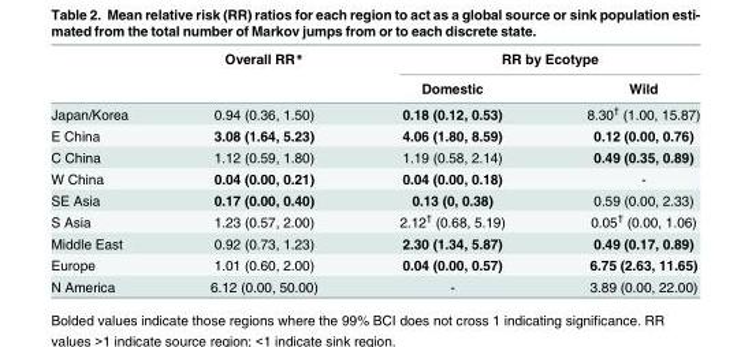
<table><thead><tr><td rowspan="2"></td><td rowspan="2">Overall RR*</td><td colspan="2">RR by Ecotype</td></tr><tr><td>Domestic</td><td>Wild</td></tr></thead><tbody><tr><td>Japan/Korea</td><td>0.94 (0.36, 1.50)</td><td>0.18 (0.12, 0.53)</td><td>8.30<sup>†</sup> (1.00, 15.87)</td></tr><tr><td>E China</td><td>3.08 (1.64, 5.23)</td><td>4.06 (1.80, 8.59)</td><td>0.12 (0.00, 0.76)</td></tr><tr><td>C China</td><td>1.12 (0.59, 1.80)</td><td>1.19 (0.58, 2.14)</td><td>0.49 (0.35, 0.89)</td></tr><tr><td>W China</td><td>0.04 (0.00, 0.21)</td><td>0.04 (0.00, 0.18)</td><td>-</td></tr><tr><td>SE Asia</td><td>0.17 (0.00, 0.40)</td><td>0.13 (0, 0.38)</td><td>0.59 (0.00, 2.33)</td></tr><tr><td>S Asia</td><td>1.23 (0.57, 2.00)</td><td>2.12<sup>†</sup> (0.68, 5.19)</td><td>0.05<sup>†</sup> (0.00, 1.06)</td></tr><tr><td>Middle East</td><td>0.92 (0.73, 1.23)</td><td>2.30 (1.34, 5.87)</td><td>0.49 (0.17, 0.89)</td></tr><tr><td>Europe</td><td>1.01 (0.60, 2.00)</td><td>0.04 (0.00, 0.57)</td><td>6.75 (2.63, 11.65)</td></tr><tr><td>N America</td><td>6.12 (0.00, 50.00)</td><td>-</td><td>3.89 (0.00, 22.00)</td></tr></tbody></table>